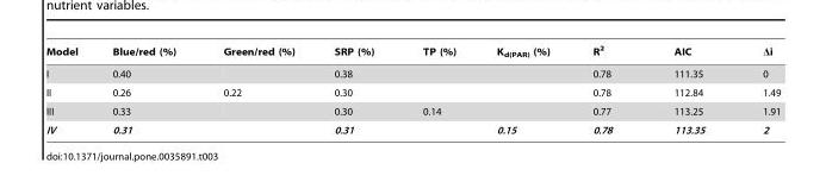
<table><thead><tr><td>Model</td><td>Blue/red (%)</td><td>Green/red (%)</td><td>SRP (%)</td><td>TP (%)</td><td>K<sub>d(PAR)</sub> (%)</td><td>R<sup>2</sup></td><td>AIC</td><td>Δi</td></tr></thead><tbody><tr><td>I</td><td>0.40</td><td></td><td>0.38</td><td></td><td></td><td>0.78</td><td>111.35</td><td>0</td></tr><tr><td>II</td><td>0.26</td><td>0.22</td><td>0.30</td><td></td><td></td><td>0.78</td><td>112.84</td><td>1.49</td></tr><tr><td>III</td><td>0.33</td><td></td><td>0.30</td><td>0.14</td><td></td><td>0.77</td><td>113.25</td><td>1.91</td></tr><tr><td>IV</td><td>0.31</td><td></td><td>0.31</td><td></td><td>0.15</td><td>0.78</td><td>113.35</td><td>2</td></tr></tbody></table>